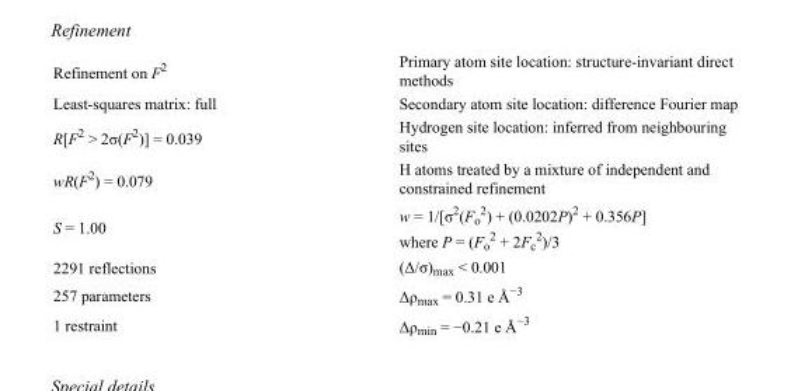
<table><tbody><tr><td>Refinement on F<sup>2</sup></td><td>Primary atom site location: structure-invariant direct methods</td></tr><tr><td>Least-squares matrix: full</td><td>Secondary atom site location: difference Fourier map</td></tr><tr><td>R[F<sup>2</sup> &gt; 2σ(F<sup>2</sup>)] = 0.039</td><td>Hydrogen site location: inferred from neighbouring sites</td></tr><tr><td>wR(F<sup>2</sup>) = 0.079</td><td>H atoms treated by a mixture of independent and constrained refinement</td></tr><tr><td>S = 1.00</td><td>w = 1/[σ<sup>2</sup>(F<sub>o</sub> <sup>2</sup>) + (0.0202P)<sup>2</sup> + 0.356P] where P = (F<sub>o</sub> <sup>2</sup> + 2F<sub>c</sub> <sup>2</sup>)/3</td></tr><tr><td>2291 reflections</td><td>(Δ/σ)<sub>max</sub> &lt; 0.001</td></tr><tr><td>257 parameters</td><td>Δρ<sub>max</sub> = 0.31 e Å<sup>−3</sup></td></tr><tr><td>1 restraint</td><td>Δρ<sub>min</sub> = −0.21 e Å<sup>−3</sup></td></tr></tbody></table>